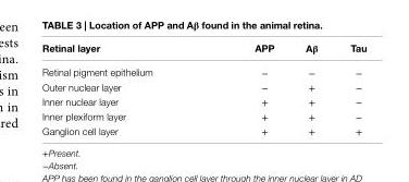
<table><thead><tr><td>Retinal layer</td><td>APP</td><td>Aβ</td><td>Tau</td></tr></thead><tbody><tr><td>Retinal pigment epithelium</td><td>−</td><td>−</td><td>−</td></tr><tr><td>Outer nuclear layer</td><td>−</td><td>+</td><td>−</td></tr><tr><td>Inner nuclear layer</td><td>+</td><td>+</td><td>−</td></tr><tr><td>Inner plexiform layer</td><td>+</td><td>+</td><td>−</td></tr><tr><td>Ganglion cell layer</td><td>+</td><td>+</td><td>+</td></tr></tbody></table>